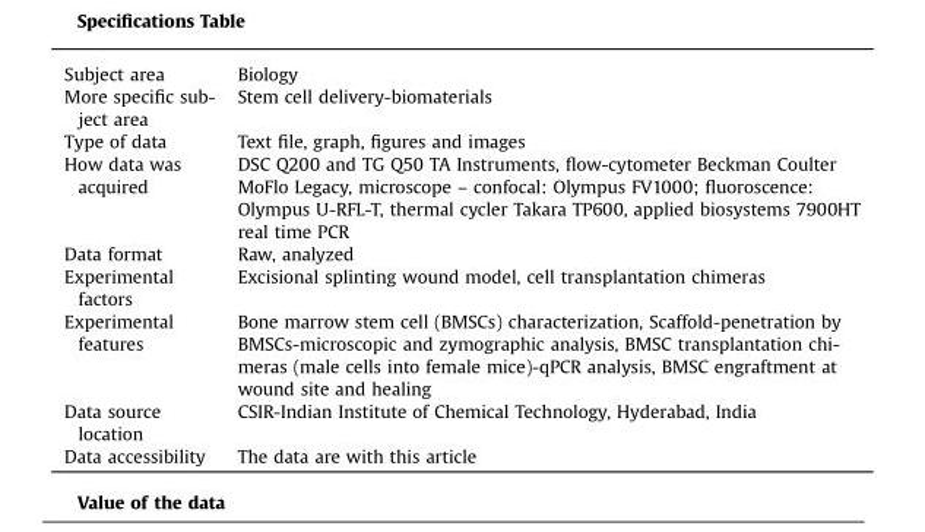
<table><tbody><tr><td>Subject area</td><td>Biology</td></tr><tr><td>More specific sub- ject area</td><td>Stem cell delivery-biomaterials</td></tr><tr><td>Type of data</td><td>Text file, graph, figures and images</td></tr><tr><td>How data was acquired</td><td>DSC Q200 and TG Q50 TA Instruments, flow-cytometer Beckman Coulter MoFlo Legacy, microscope – confocal: Olympus FV1000; fluoroscence: Olympus U-RFL-T, thermal cycler Takara TP600, applied biosystems 7900HT real time PCR</td></tr><tr><td>Data format</td><td>Raw, analyzed</td></tr><tr><td>Experimental factors</td><td>Excisional splinting wound model, cell transplantation chimeras</td></tr><tr><td>Experimental features</td><td>Bone marrow stem cell (BMSCs) characterization, Scaffold-penetration by BMSCs-microscopic and zymographic analysis, BMSC transplantation chi- meras (male cells into female mice)-qPCR analysis, BMSC engraftment at wound site and healing</td></tr><tr><td>Data source location</td><td>CSIR-Indian Institute of Chemical Technology, Hyderabad, India</td></tr><tr><td>Data accessibility</td><td>The data are with this article</td></tr></tbody></table>